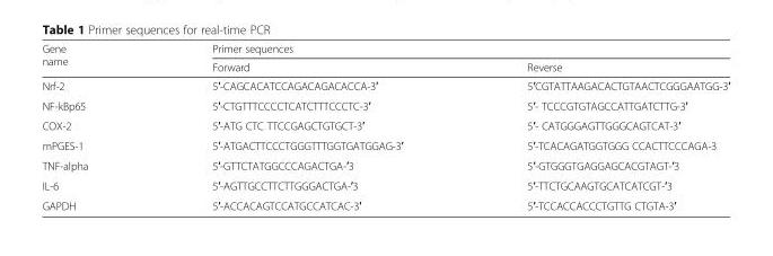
<table><thead><tr><td rowspan="2">Gene name</td><td colspan="2">Primer sequences</td></tr><tr><td>Forward</td><td>Reverse</td></tr></thead><tbody><tr><td>Nrf-2</td><td>5′-CAGCACATCCAGACAGACACCA-3′</td><td>5′CGTATTAAGACACTGTAACTCGGGAATGG-3′</td></tr><tr><td>NF-kBp65</td><td>5′-CTGTTTCCCCTCATCTTTCCCTC-3′</td><td>5′- TCCCGTGTAGCCATTGATCTTG-3′</td></tr><tr><td>COX-2</td><td>5′-ATG CTC TTCCGAGCTGTGCT-3′</td><td>5′- CATGGGAGTTGGGCAGTCAT-3′</td></tr><tr><td>mPGES-1</td><td>5′-ATGACTTCCCTGGGTTTGGTGATGGAG-3′</td><td>5′-TCACAGATGGTGGG CCACTTCCCAGA-3</td></tr><tr><td>TNF-alpha</td><td>5′-GTTCTATGGCCCAGACTGA-′3</td><td>5′-GTGGGTGAGGAGCACGTAGT-′3</td></tr><tr><td>IL-6</td><td>5′-AGTTGCCTTCTTGGGACTGA-′3</td><td>5′-TTCTGCAAGTGCATCATCGT-′3</td></tr><tr><td>GAPDH</td><td>5′-ACCACAGTCCATGCCATCAC-3′</td><td>5′-TCCACCACCCTGTTG CTGTA-3′</td></tr></tbody></table>